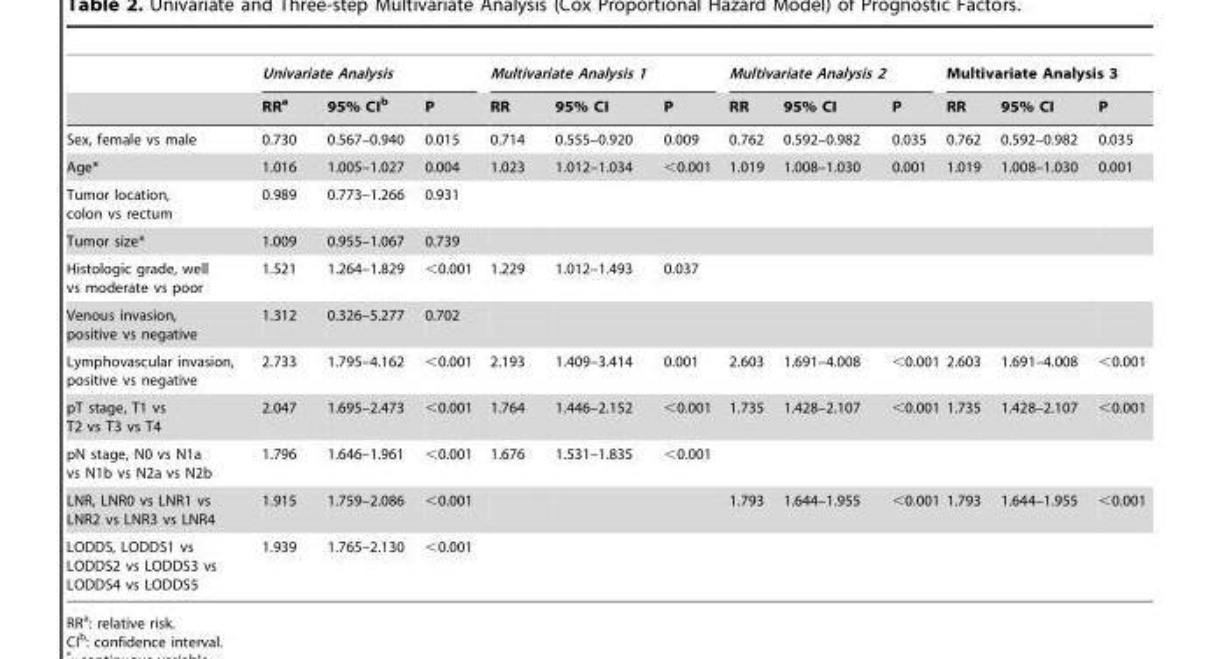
<table><thead><tr><td rowspan="2"></td><td colspan="3">Univariate Analysis</td><td colspan="3">Multivariate Analysis 1</td><td colspan="3">Multivariate Analysis 2</td><td colspan="3">Multivariate Analysis 3</td></tr><tr><td>RR<sup>a</sup></td><td>95% CI<sup>b</sup></td><td>P</td><td>RR</td><td>95% CI</td><td>P</td><td>RR</td><td>95% CI</td><td>P</td><td>RR</td><td>95% CI</td><td>P</td></tr></thead><tbody><tr><td>Sex, female vs male</td><td>0.730</td><td>0.567–0.940</td><td>0.015</td><td>0.714</td><td>0.555–0.920</td><td>0.009</td><td>0.762</td><td>0.592–0.982</td><td>0.035</td><td>0.762</td><td>0.592–0.982</td><td>0.035</td></tr><tr><td>Age*</td><td>1.016</td><td>1.005–1.027</td><td>0.004</td><td>1.023</td><td>1.012–1.034</td><td>&lt;0.001</td><td>1.019</td><td>1.008–1.030</td><td>0.001</td><td>1.019</td><td>1.008–1.030</td><td>0.001</td></tr><tr><td>Tumor location, colon vs rectum</td><td>0.989</td><td>0.773–1.266</td><td>0.931</td><td></td><td></td><td></td><td></td><td></td><td></td><td></td><td></td><td></td></tr><tr><td>Tumor size*</td><td>1.009</td><td>0.955–1.067</td><td>0.739</td><td></td><td></td><td></td><td></td><td></td><td></td><td></td><td></td><td></td></tr><tr><td>Histologic grade, well vs moderate vs poor</td><td>1.521</td><td>1.264–1.829</td><td>&lt;0.001</td><td>1.229</td><td>1.012–1.493</td><td>0.037</td><td></td><td></td><td></td><td></td><td></td><td></td></tr><tr><td>Venous invasion, positive vs negative</td><td>1.312</td><td>0.326–5.277</td><td>0.702</td><td></td><td></td><td></td><td></td><td></td><td></td><td></td><td></td><td></td></tr><tr><td>Lymphovascular invasion, positive vs negative</td><td>2.733</td><td>1.795–4.162</td><td>&lt;0.001</td><td>2.193</td><td>1.409–3.414</td><td>0.001</td><td>2.603</td><td>1.691–4.008</td><td>&lt;0.001</td><td>2.603</td><td>1.691–4.008</td><td>&lt;0.001</td></tr><tr><td>pT stage, T1 vs T2 vs T3 vs T4</td><td>2.047</td><td>1.695–2.473</td><td>&lt;0.001</td><td>1.764</td><td>1.446–2.152</td><td>&lt;0.001</td><td>1.735</td><td>1.428–2.107</td><td>&lt;0.001</td><td>1.735</td><td>1.428–2.107</td><td>&lt;0.001</td></tr><tr><td>pN stage, N0 vs N1a vs N1b vs N2a vs N2b</td><td>1.796</td><td>1.646–1.961</td><td>&lt;0.001</td><td>1.676</td><td>1.531–1.835</td><td>&lt;0.001</td><td></td><td></td><td></td><td></td><td></td><td></td></tr><tr><td>LNR, LNR0 vs LNR1 vs LNR2 vs LNR3 vs LNR4</td><td>1.915</td><td>1.759–2.086</td><td>&lt;0.001</td><td></td><td></td><td></td><td>1.793</td><td>1.644–1.955</td><td>&lt;0.001</td><td>1.793</td><td>1.644–1.955</td><td>&lt;0.001</td></tr><tr><td>LODDS, LODDS1 vs LODDS2 vs LODDS3 vs LODDS4 vs LODDS5</td><td>1.939</td><td>1.765–2.130</td><td>&lt;0.001</td><td></td><td></td><td></td><td></td><td></td><td></td><td></td><td></td><td></td></tr></tbody></table>